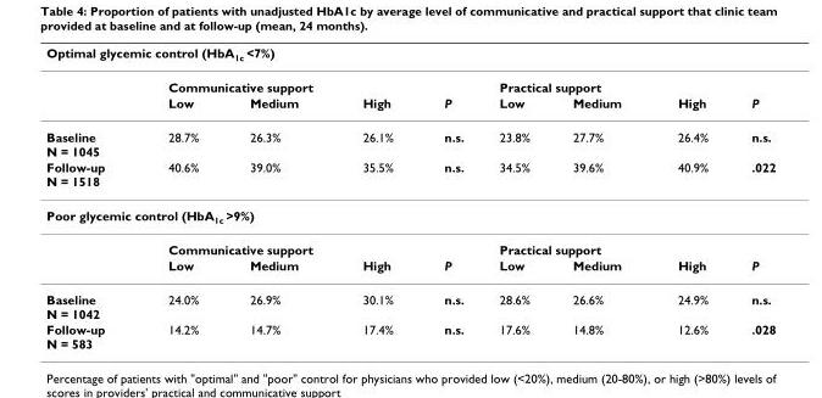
<table><thead><tr><td colspan="9">Optimal glycemic control (HbA1c &lt;7%)</td></tr><tr><td rowspan="2"></td><td colspan="3">Communicative support</td><td rowspan="2">P</td><td colspan="3">Practical support</td><td rowspan="2">P</td></tr><tr><td>Low</td><td>Medium</td><td>High</td><td>Low</td><td>Medium</td><td>High</td></tr></thead><tbody><tr><td>Baseline N = 1045</td><td>28.7%</td><td>26.3%</td><td>26.1%</td><td>n.s.</td><td>23.8%</td><td>27.7%</td><td>26.4%</td><td>n.s.</td></tr><tr><td>Follow-up N = 1518</td><td>40.6%</td><td>39.0%</td><td>35.5%</td><td>n.s.</td><td>34.5%</td><td>39.6%</td><td>40.9%</td><td>.022</td></tr><tr><td colspan="9">Poor glycemic control (HbA1c &gt;9%)</td></tr><tr><td></td><td colspan="3">Communicative support</td><td></td><td colspan="3">Practical support</td><td></td></tr><tr><td></td><td>Low</td><td>Medium</td><td>High</td><td>P</td><td>Low</td><td>Medium</td><td>High</td><td>P</td></tr><tr><td>Baseline N = 1042</td><td>24.0%</td><td>26.9%</td><td>30.1%</td><td>n.s.</td><td>28.6%</td><td>26.6%</td><td>24.9%</td><td>n.s.</td></tr><tr><td>Follow-up N = 583</td><td>14.2%</td><td>14.7%</td><td>17.4%</td><td>n.s.</td><td>17.6%</td><td>14.8%</td><td>12.6%</td><td>.028</td></tr></tbody></table>